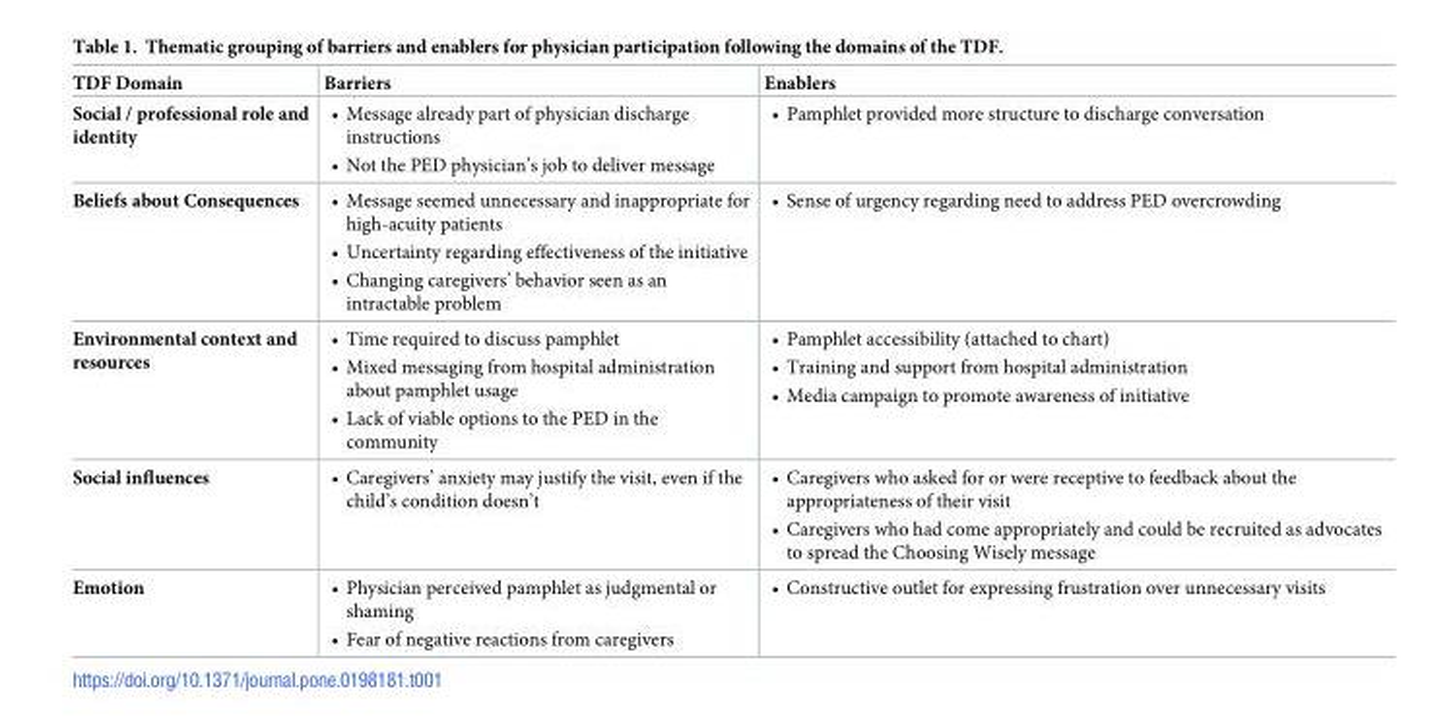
<table><thead><tr><td>TDF Domain</td><td>Barriers</td><td>Enablers</td></tr></thead><tbody><tr><td>Social / professional role and identity</td><td>• Message already part of physician discharge instructions • Not the PED physician’s job to deliver message</td><td>• Pamphlet provided more structure to discharge conversation</td></tr><tr><td>Beliefs about Consequences</td><td>• Message seemed unnecessary and inappropriate for high-acuity patients • Uncertainty regarding effectiveness of the initiative • Changing caregivers’ behavior seen as an intractable problem</td><td>• Sense of urgency regarding need to address PED overcrowding</td></tr><tr><td>Environmental context and resources</td><td>• Time required to discuss pamphlet • Mixed messaging from hospital administration about pamphlet usage • Lack of viable options to the PED in the community</td><td>• Pamphlet accessibility (attached to chart) • Training and support from hospital administration • Media campaign to promote awareness of initiative</td></tr><tr><td>Social influences</td><td>• Caregivers’ anxiety may justify the visit, even if the child’s condition doesn’t</td><td>• Caregivers who asked for or were receptive to feedback about the appropriateness of their visit • Caregivers who had come appropriately and could be recruited as advocates to spread the Choosing Wisely message</td></tr><tr><td>Emotion</td><td>• Physician perceived pamphlet as judgmental or shaming • Fear of negative reactions from caregivers</td><td>• Constructive outlet for expressing frustration over unnecessary visits</td></tr></tbody></table>